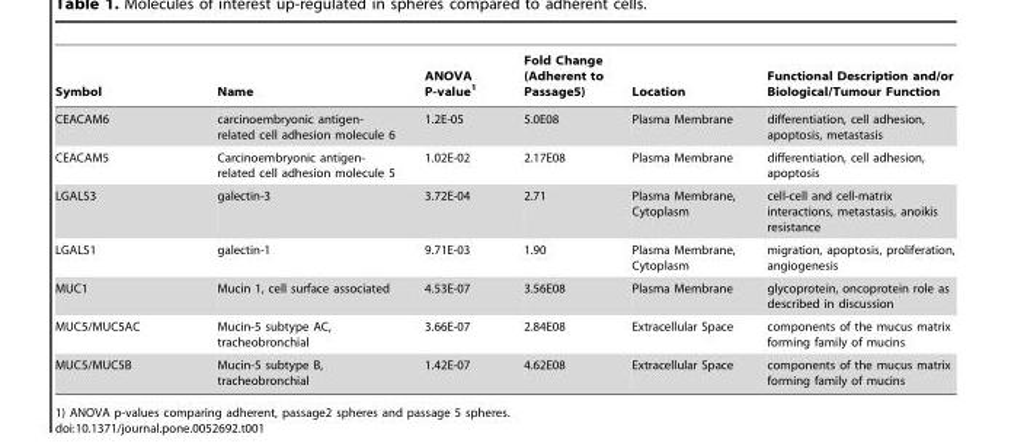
<table><thead><tr><td>Symbol</td><td>Name</td><td>ANOVA P-value<sup>1</sup></td><td>Fold Change (Adherent to Passage5)</td><td>Location</td><td>Functional Description and/or Biological/Tumour Function</td></tr></thead><tbody><tr><td>CEACAM6</td><td>carcinoembryonic antigen- related cell adhesion molecule 6</td><td>1.2E-05</td><td>5.0E08</td><td>Plasma Membrane</td><td>differentiation, cell adhesion, apoptosis, metastasis</td></tr><tr><td>CEACAM5</td><td>Carcinoembryonic antigen- related cell adhesion molecule 5</td><td>1.02E-02</td><td>2.17E08</td><td>Plasma Membrane</td><td>differentiation, cell adhesion, apoptosis</td></tr><tr><td>LGALS3</td><td>galectin-3</td><td>3.72E-04</td><td>2.71</td><td>Plasma Membrane, Cytoplasm</td><td>cell-cell and cell-matrix interactions, metastasis, anoikis resistance</td></tr><tr><td>LGALS1</td><td>galectin-1</td><td>9.71E-03</td><td>1.90</td><td>Plasma Membrane, Cytoplasm</td><td>migration, apoptosis, proliferation, angiogenesis</td></tr><tr><td>MUC1</td><td>Mucin 1, cell surface associated</td><td>4.53E-07</td><td>3.56E08</td><td>Plasma Membrane</td><td>glycoprotein, oncoprotein role as described in discussion</td></tr><tr><td>MUC5/MUC5AC</td><td>Mucin-5 subtype AC, tracheobronchial</td><td>3.66E-07</td><td>2.84E08</td><td>Extracellular Space</td><td>components of the mucus matrix forming family of mucins</td></tr><tr><td>MUC5/MUC5B</td><td>Mucin-5 subtype B, tracheobronchial</td><td>1.42E-07</td><td>4.62E08</td><td>Extracellular Space</td><td>components of the mucus matrix forming family of mucins</td></tr></tbody></table>